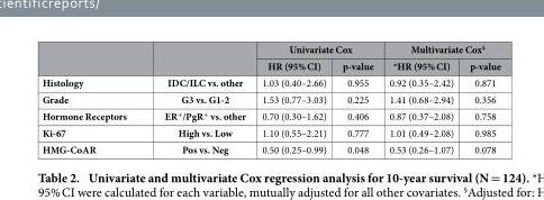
<table><thead><tr><td rowspan="2"></td><td rowspan="2"></td><td colspan="2">Univariate Cox</td><td colspan="2">Multivariate Cox§</td></tr><tr><td>HR (95% CI)</td><td>p-value</td><td>*HR (95% CI)</td><td>p-value</td></tr></thead><tbody><tr><td>Histology</td><td>IDC/ILC vs. other</td><td>1.03 (0.40–2.66)</td><td>0.955</td><td>0.92 (0.35–2.42)</td><td>0.871</td></tr><tr><td>Grade</td><td>G3 vs. G1-2</td><td>1.53 (0.77–3.03)</td><td>0.225</td><td>1.41 (0.68–2.94)</td><td>0.356</td></tr><tr><td>Hormone Receptors</td><td>ER<sup>+</sup>/PgR<sup>+</sup> vs. other</td><td>0.70 (0.30–1.62)</td><td>0.406</td><td>0.87 (0.37–2.08)</td><td>0.758</td></tr><tr><td>Ki-67</td><td>High vs. Low</td><td>1.10 (0.55–2.21)</td><td>0.777</td><td>1.01 (0.49–2.08)</td><td>0.985</td></tr><tr><td>HMG-CoAR</td><td>Pos vs. Neg</td><td>0.50 (0.25–0.99)</td><td>0.048</td><td>0.53 (0.26–1.07)</td><td>0.078</td></tr></tbody></table>